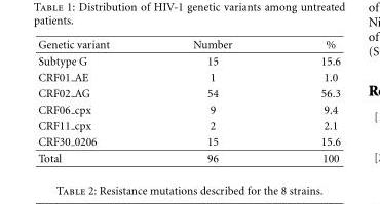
<table><thead><tr><td>Genetic variant</td><td>Number</td><td>%</td></tr></thead><tbody><tr><td>Subtype G</td><td>15</td><td>15.6</td></tr><tr><td>CRF01 AE</td><td>1</td><td>1.0</td></tr><tr><td>CRF02 AG</td><td>54</td><td>56.3</td></tr><tr><td>CRF06 cpx</td><td>9</td><td>9.4</td></tr><tr><td>CRF11 cpx</td><td>2</td><td>2.1</td></tr><tr><td>CRF30 0206</td><td>15</td><td>15.6</td></tr><tr><td>Total</td><td>96</td><td>100</td></tr></tbody></table>